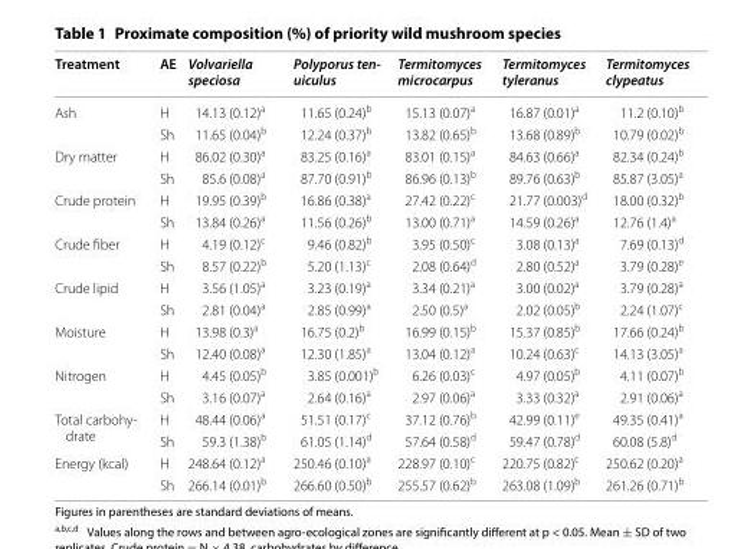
<table><thead><tr><td>Treatment</td><td>AE</td><td>Volvariella speciosa</td><td>Polyporus ten- uiculus</td><td>Termitomyces microcarpus</td><td>Termitomyces tyleranus</td><td>Termitomyces clypeatus</td></tr></thead><tbody><tr><td rowspan="2">Ash</td><td>H</td><td>14.13 (0.12)<sup>a</sup></td><td>11.65 (0.24)<sup>b</sup></td><td>15.13 (0.07)<sup>a</sup></td><td>16.87 (0.01)<sup>a</sup></td><td>11.2 (0.10)<sup>b</sup></td></tr><tr><td>Sh</td><td>11.65 (0.04)<sup>b</sup></td><td>12.24 (0.37)<sup>b</sup></td><td>13.82 (0.65)<sup>b</sup></td><td>13.68 (0.89)<sup>b</sup></td><td>10.79 (0.02)<sup>b</sup></td></tr><tr><td rowspan="2">Dry matter</td><td>H</td><td>86.02 (0.30)<sup>a</sup></td><td>83.25 (0.16)<sup>a</sup></td><td>83.01 (0.15)<sup>a</sup></td><td>84.63 (0.66)<sup>a</sup></td><td>82.34 (0.24)<sup>b</sup></td></tr><tr><td>Sh</td><td>85.6 (0.08)<sup>a</sup></td><td>87.70 (0.91)<sup>b</sup></td><td>86.96 (0.13)<sup>b</sup></td><td>89.76 (0.63)<sup>b</sup></td><td>85.87 (3.05)<sup>a</sup></td></tr><tr><td rowspan="2">Crude protein</td><td>H</td><td>19.95 (0.39)<sup>b</sup></td><td>16.86 (0.38)<sup>a</sup></td><td>27.42 (0.22)<sup>c</sup></td><td>21.77 (0.003)<sup>d</sup></td><td>18.00 (0.32)<sup>b</sup></td></tr><tr><td>Sh</td><td>13.84 (0.26)<sup>a</sup></td><td>11.56 (0.26)<sup>b</sup></td><td>13.00 (0.71)<sup>a</sup></td><td>14.59 (0.26)<sup>a</sup></td><td>12.76 (1.4)<sup>a</sup></td></tr><tr><td rowspan="2">Crude fiber</td><td>H</td><td>4.19 (0.12)<sup>c</sup></td><td>9.46 (0.82)<sup>b</sup></td><td>3.95 (0.50)<sup>c</sup></td><td>3.08 (0.13)<sup>a</sup></td><td>7.69 (0.13)<sup>d</sup></td></tr><tr><td>Sh</td><td>8.57 (0.22)<sup>b</sup></td><td>5.20 (1.13)<sup>c</sup></td><td>2.08 (0.64)<sup>d</sup></td><td>2.80 (0.52)<sup>a</sup></td><td>3.79 (0.28)<sup>e</sup></td></tr><tr><td rowspan="2">Crude lipid</td><td>H</td><td>3.56 (1.05)<sup>a</sup></td><td>3.23 (0.19)<sup>a</sup></td><td>3.34 (0.21)<sup>a</sup></td><td>3.00 (0.02)<sup>a</sup></td><td>3.79 (0.28)<sup>a</sup></td></tr><tr><td>Sh</td><td>2.81 (0.04)<sup>a</sup></td><td>2.85 (0.99)<sup>a</sup></td><td>2.50 (0.5)<sup>a</sup></td><td>2.02 (0.05)<sup>b</sup></td><td>2.24 (1.07)<sup>c</sup></td></tr><tr><td rowspan="2">Moisture</td><td>H</td><td>13.98 (0.3)<sup>a</sup></td><td>16.75 (0.2)<sup>b</sup></td><td>16.99 (0.15)<sup>b</sup></td><td>15.37 (0.85)<sup>b</sup></td><td>17.66 (0.24)<sup>b</sup></td></tr><tr><td>Sh</td><td>12.40 (0.08)<sup>a</sup></td><td>12.30 (1.85)<sup>a</sup></td><td>13.04 (0.12)<sup>a</sup></td><td>10.24 (0.63)<sup>c</sup></td><td>14.13 (3.05)<sup>a</sup></td></tr><tr><td rowspan="2">Nitrogen</td><td>H</td><td>4.45 (0.05)<sup>b</sup></td><td>3.85 (0.001)<sup>b</sup></td><td>6.26 (0.03)<sup>c</sup></td><td>4.97 (0.05)<sup>b</sup></td><td>4.11 (0.07)<sup>b</sup></td></tr><tr><td>Sh</td><td>3.16 (0.07)<sup>a</sup></td><td>2.64 (0.16)<sup>a</sup></td><td>2.97 (0.06)<sup>a</sup></td><td>3.33 (0.32)<sup>a</sup></td><td>2.91 (0.06)<sup>a</sup></td></tr><tr><td rowspan="2">Total carbohy- drate</td><td>H</td><td>48.44 (0.06)<sup>a</sup></td><td>51.51 (0.17)<sup>c</sup></td><td>37.12 (0.76)<sup>b</sup></td><td>42.99 (0.11)<sup>e</sup></td><td>49.35 (0.41)<sup>a</sup></td></tr><tr><td>Sh</td><td>59.3 (1.38)<sup>b</sup></td><td>61.05 (1.14)<sup>d</sup></td><td>57.64 (0.58)<sup>d</sup></td><td>59.47 (0.78)<sup>d</sup></td><td>60.08 (5.8)<sup>d</sup></td></tr><tr><td rowspan="2">Energy (kcal)</td><td>H</td><td>248.64 (0.12)<sup>a</sup></td><td>250.46 (0.10)<sup>a</sup></td><td>228.97 (0.10)<sup>c</sup></td><td>220.75 (0.82)<sup>c</sup></td><td>250.62 (0.20)<sup>a</sup></td></tr><tr><td>Sh</td><td>266.14 (0.01)<sup>b</sup></td><td>266.60 (0.50)<sup>b</sup></td><td>255.57 (0.62)<sup>b</sup></td><td>263.08 (1.09)<sup>b</sup></td><td>261.26 (0.71)<sup>b</sup></td></tr></tbody></table>